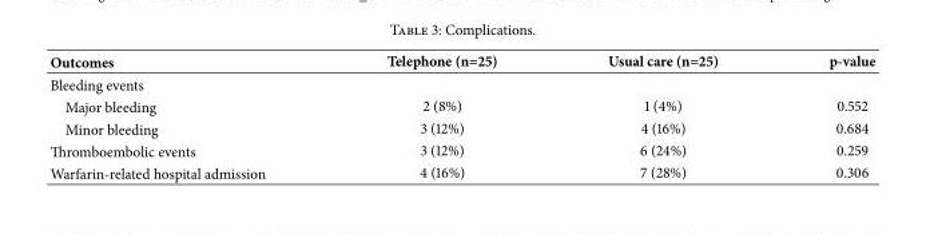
<table><thead><tr><td>Outcomes</td><td>Telephone (n=25)</td><td>Usual care (n=25)</td><td>p-value</td></tr></thead><tbody><tr><td colspan="4">Bleeding events</td></tr><tr><td>Major bleeding</td><td>2 (8%)</td><td>1 (4%)</td><td>0.552</td></tr><tr><td>Minor bleeding</td><td>3 (12%)</td><td>4 (16%)</td><td>0.684</td></tr><tr><td>Thromboembolic events</td><td>3 (12%)</td><td>6 (24%)</td><td>0.259</td></tr><tr><td>Warfarin-related hospital admission</td><td>4 (16%)</td><td>7 (28%)</td><td>0.306</td></tr></tbody></table>